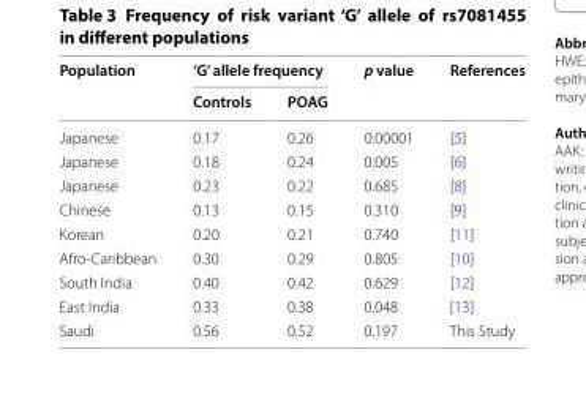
<table><thead><tr><td rowspan="2">Population</td><td colspan="2">‘G’ allele frequency</td><td rowspan="2">p value</td><td rowspan="2">References</td></tr><tr><td>Controls</td><td>POAG</td></tr></thead><tbody><tr><td>Japanese</td><td>0.17</td><td>0.26</td><td>0.00001</td><td>[5]</td></tr><tr><td>Japanese</td><td>0.18</td><td>0.24</td><td>0.005</td><td>[6]</td></tr><tr><td>Japanese</td><td>0.23</td><td>0.22</td><td>0.685</td><td>[8]</td></tr><tr><td>Chinese</td><td>0.13</td><td>0.15</td><td>0.310</td><td>[9]</td></tr><tr><td>Korean</td><td>0.20</td><td>0.21</td><td>0.740</td><td>[11]</td></tr><tr><td>Afro‑Caribbean</td><td>0.30</td><td>0.29</td><td>0.805</td><td>[10]</td></tr><tr><td>South India</td><td>0.40</td><td>0.42</td><td>0.629</td><td>[12]</td></tr><tr><td>East India</td><td>0.33</td><td>0.38</td><td>0.048</td><td>[13]</td></tr><tr><td>Saudi</td><td>0.56</td><td>0.52</td><td>0.197</td><td>This Study</td></tr></tbody></table>